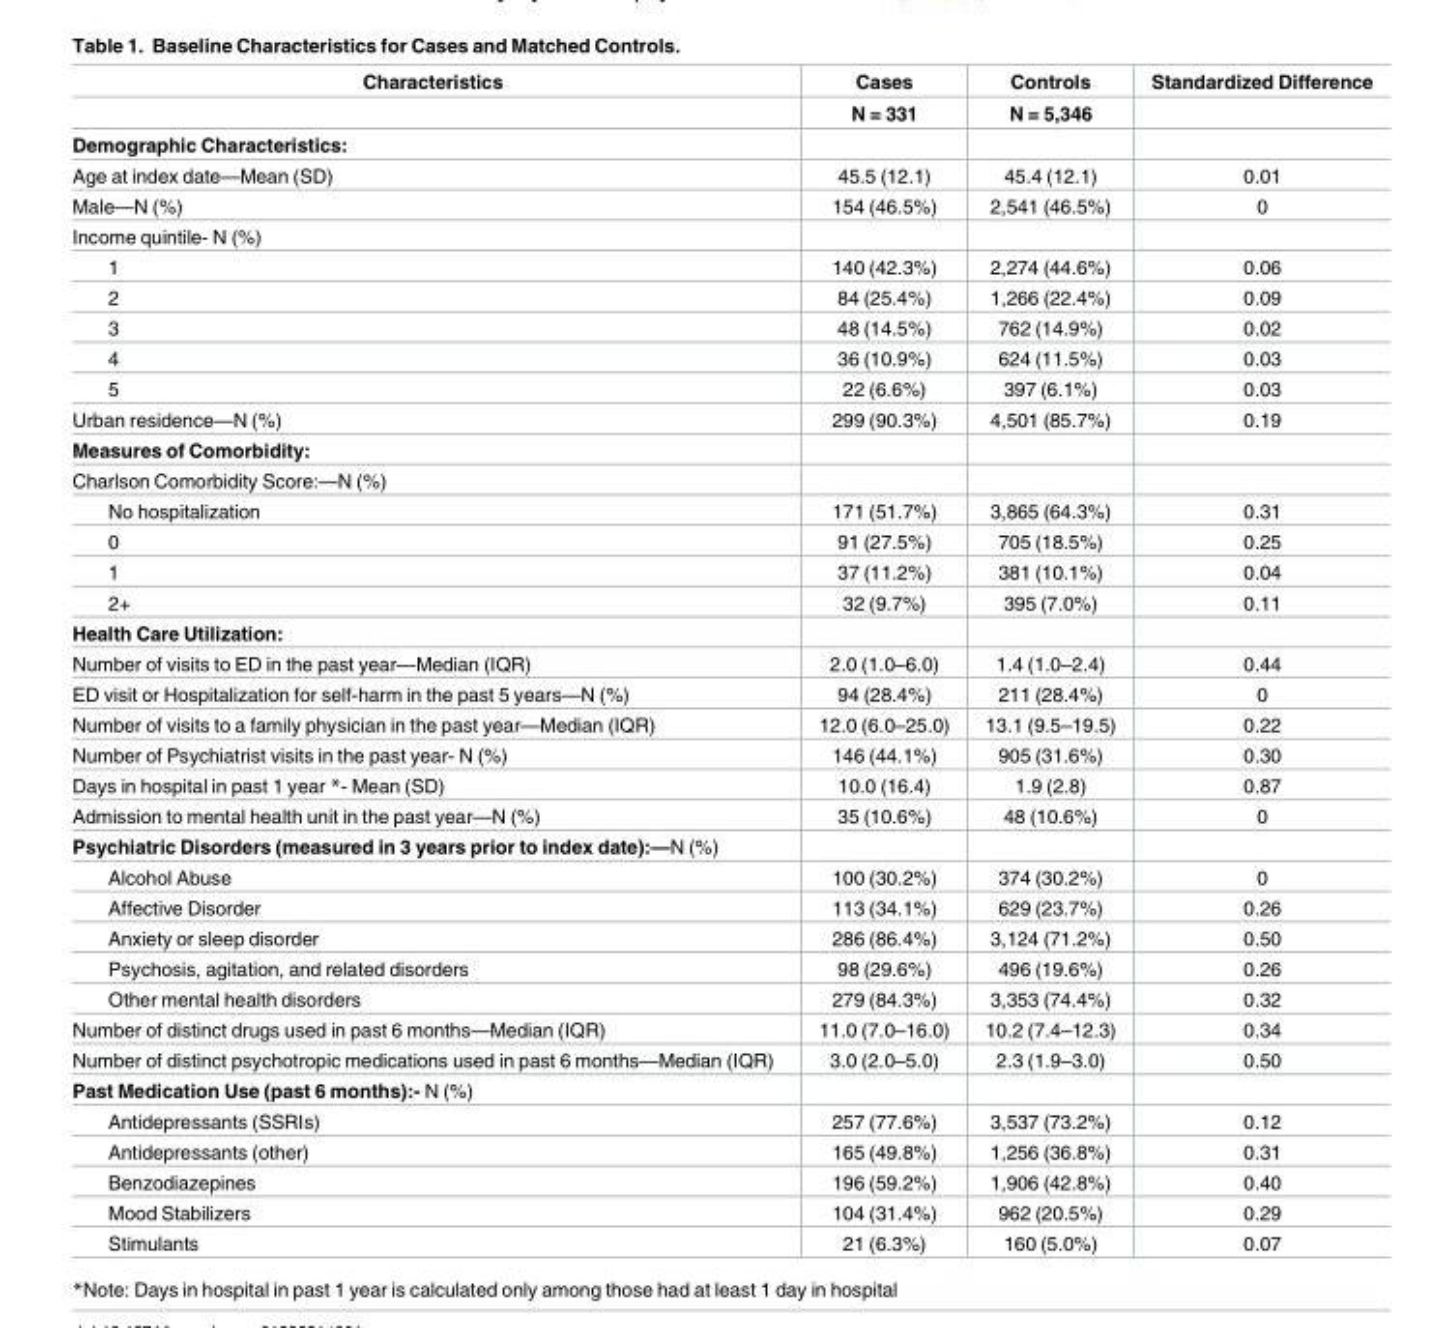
<table><thead><tr><td rowspan="2">Characteristics</td><td rowspan="2">Cases N = 331</td><td rowspan="2">Controls N = 5,346</td><td rowspan="2">Standardized Difference</td></tr><tr></tr></thead><tbody><tr><td colspan="4">Demographic Characteristics:</td></tr><tr><td>Age at index date—Mean (SD)</td><td>45.5 (12.1)</td><td>45.4 (12.1)</td><td>0.01</td></tr><tr><td>Male—N (%)</td><td>154 (46.5%)</td><td>2,541 (46.5%)</td><td>0</td></tr><tr><td colspan="4">Income quintile- N (%)</td></tr><tr><td>1</td><td>140 (42.3%)</td><td>2,274 (44.6%)</td><td>0.06</td></tr><tr><td>2</td><td>84 (25.4%)</td><td>1,266 (22.4%)</td><td>0.09</td></tr><tr><td>3</td><td>48 (14.5%)</td><td>762 (14.9%)</td><td>0.02</td></tr><tr><td>4</td><td>36 (10.9%)</td><td>624 (11.5%)</td><td>0.03</td></tr><tr><td>5</td><td>22 (6.6%)</td><td>397 (6.1%)</td><td>0.03</td></tr><tr><td>Urban residence—N (%)</td><td>299 (90.3%)</td><td>4,501 (85.7%)</td><td>0.19</td></tr><tr><td colspan="4">Measures of Comorbidity:</td></tr><tr><td colspan="4">Charlson Comorbidity Score:—N (%)</td></tr><tr><td>No hospitalization</td><td>171 (51.7%)</td><td>3,865 (64.3%)</td><td>0.31</td></tr><tr><td>0</td><td>91 (27.5%)</td><td>705 (18.5%)</td><td>0.25</td></tr><tr><td>1</td><td>37 (11.2%)</td><td>381 (10.1%)</td><td>0.04</td></tr><tr><td>2+</td><td>32 (9.7%)</td><td>395 (7.0%)</td><td>0.11</td></tr><tr><td colspan="4">Health Care Utilization:</td></tr><tr><td>Number of visits to ED in the past year—Median (IQR)</td><td>2.0 (1.0–6.0)</td><td>1.4 (1.0–2.4)</td><td>0.44</td></tr><tr><td>ED visit or Hospitalization for self-harm in the past 5 years—N (%)</td><td>94 (28.4%)</td><td>211 (28.4%)</td><td>0</td></tr><tr><td>Number of visits to a family physician in the past year—Median (IQR)</td><td>12.0 (6.0–25.0)</td><td>13.1 (9.5–19.5)</td><td>0.22</td></tr><tr><td>Number of Psychiatrist visits in the past year- N (%)</td><td>146 (44.1%)</td><td>905 (31.6%)</td><td>0.30</td></tr><tr><td>Days in hospital in past 1 year *- Mean (SD)</td><td>10.0 (16.4)</td><td>1.9 (2.8)</td><td>0.87</td></tr><tr><td>Admission to mental health unit in the past year—N (%)</td><td>35 (10.6%)</td><td>48 (10.6%)</td><td>0</td></tr><tr><td colspan="4">Psychiatric Disorders (measured in 3 years prior to index date):—N (%)</td></tr><tr><td>Alcohol Abuse</td><td>100 (30.2%)</td><td>374 (30.2%)</td><td>0</td></tr><tr><td>Affective Disorder</td><td>113 (34.1%)</td><td>629 (23.7%)</td><td>0.26</td></tr><tr><td>Anxiety or sleep disorder</td><td>286 (86.4%)</td><td>3,124 (71.2%)</td><td>0.50</td></tr><tr><td>Psychosis, agitation, and related disorders</td><td>98 (29.6%)</td><td>496 (19.6%)</td><td>0.26</td></tr><tr><td>Other mental health disorders</td><td>279 (84.3%)</td><td>3,353 (74.4%)</td><td>0.32</td></tr><tr><td>Number of distinct drugs used in past 6 months—Median (IQR)</td><td>11.0 (7.0–16.0)</td><td>10.2 (7.4–12.3)</td><td>0.34</td></tr><tr><td>Number of distinct psychotropic medications used in past 6 months—Median (IQR)</td><td>3.0 (2.0–5.0)</td><td>2.3 (1.9–3.0)</td><td>0.50</td></tr><tr><td colspan="4">Past Medication Use (past 6 months):- N (%)</td></tr><tr><td>Antidepressants (SSRIs)</td><td>257 (77.6%)</td><td>3,537 (73.2%)</td><td>0.12</td></tr><tr><td>Antidepressants (other)</td><td>165 (49.8%)</td><td>1,256 (36.8%)</td><td>0.31</td></tr><tr><td>Benzodiazepines</td><td>196 (59.2%)</td><td>1,906 (42.8%)</td><td>0.40</td></tr><tr><td>Mood Stabilizers</td><td>104 (31.4%)</td><td>962 (20.5%)</td><td>0.29</td></tr><tr><td>Stimulants</td><td>21 (6.3%)</td><td>160 (5.0%)</td><td>0.07</td></tr></tbody></table>